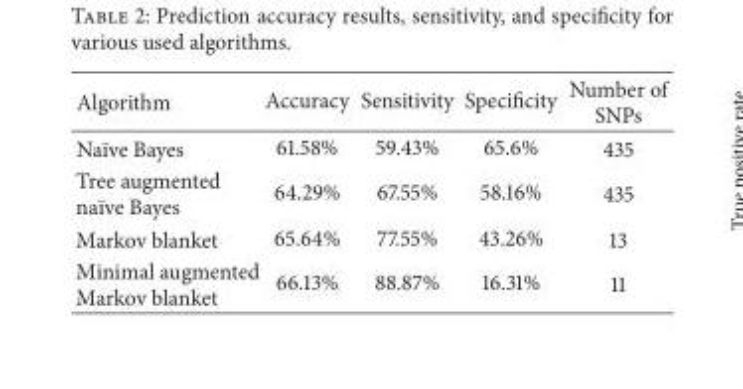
<table><thead><tr><td>Algorithm</td><td>Accuracy</td><td>Sensitivity</td><td>Specificity</td><td>Number of SNPs</td></tr></thead><tbody><tr><td>Na¨ıve Bayes</td><td>61.58%</td><td>59.43%</td><td>65.6%</td><td>435</td></tr><tr><td>Tree augmented na¨ıve Bayes</td><td>64.29%</td><td>67.55%</td><td>58.16%</td><td>435</td></tr><tr><td>Markov blanket</td><td>65.64%</td><td>77.55%</td><td>43.26%</td><td>13</td></tr><tr><td>Minimal augmented Markov blanket</td><td>66.13%</td><td>88.87%</td><td>16.31%</td><td>11</td></tr></tbody></table>